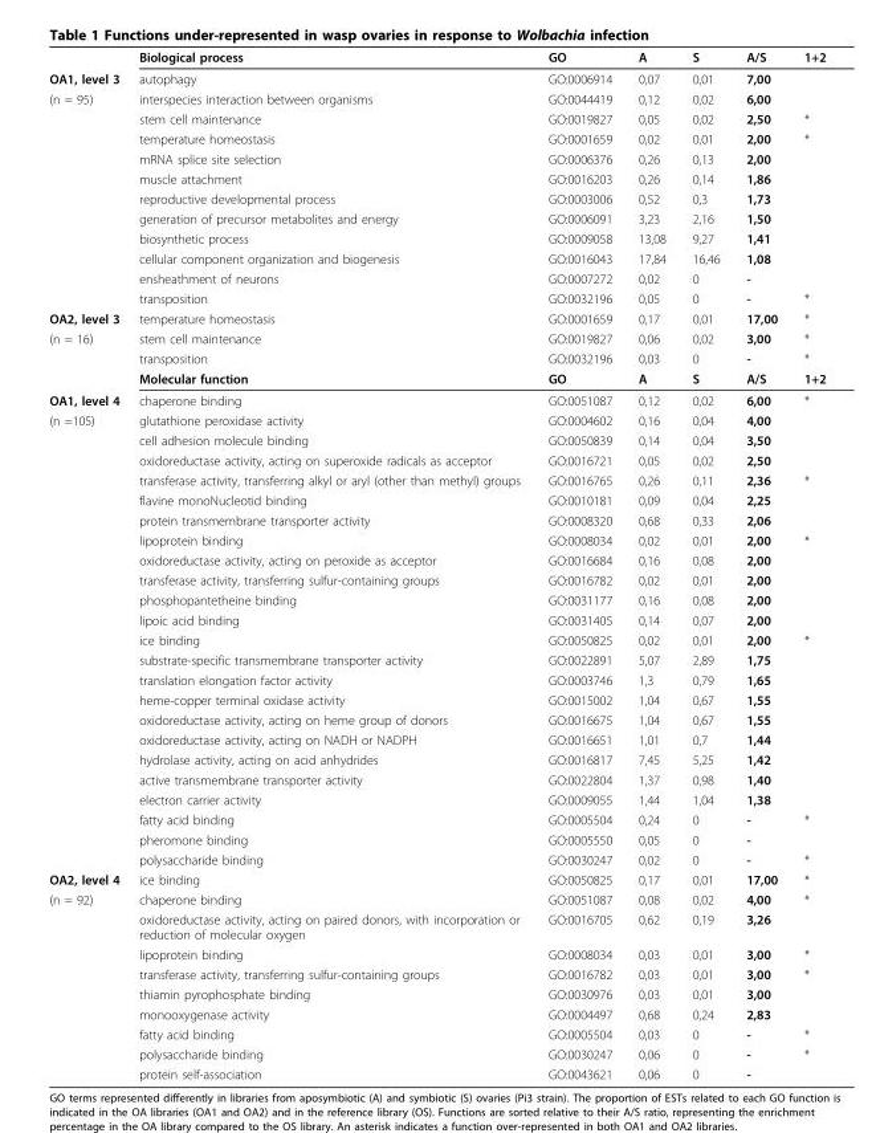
<table><thead><tr><td></td><td>Biological process</td><td>GO</td><td>A</td><td>S</td><td>A/S</td><td>1+2</td></tr></thead><tbody><tr><td>OA1, level 3</td><td>autophagy</td><td>GO:0006914</td><td>0,07</td><td>0,01</td><td>7,00</td><td></td></tr><tr><td rowspan="11">(n = 95)</td><td>interspecies interaction between organisms</td><td>GO:0044419</td><td>0,12</td><td>0,02</td><td>6,00</td><td></td></tr><tr><td>stem cell maintenance</td><td>GO:0019827</td><td>0,05</td><td>0,02</td><td>2,50</td><td>*</td></tr><tr><td>temperature homeostasis</td><td>GO:0001659</td><td>0,02</td><td>0,01</td><td>2,00</td><td>*</td></tr><tr><td>mRNA splice site selection</td><td>GO:0006376</td><td>0,26</td><td>0,13</td><td>2,00</td><td></td></tr><tr><td>muscle attachment</td><td>GO:0016203</td><td>0,26</td><td>0,14</td><td>1,86</td><td></td></tr><tr><td>reproductive developmental process</td><td>GO:0003006</td><td>0,52</td><td>0,3</td><td>1,73</td><td></td></tr><tr><td>generation of precursor metabolites and energy</td><td>GO:0006091</td><td>3,23</td><td>2,16</td><td>1,50</td><td></td></tr><tr><td>biosynthetic process</td><td>GO:0009058</td><td>13,08</td><td>9,27</td><td>1,41</td><td></td></tr><tr><td>cellular component organization and biogenesis</td><td>GO:0016043</td><td>17,84</td><td>16,46</td><td>1,08</td><td></td></tr><tr><td>ensheathment of neurons</td><td>GO:0007272</td><td>0,02</td><td>0</td><td>-</td><td></td></tr><tr><td>transposition</td><td>GO:0032196</td><td>0,05</td><td>0</td><td>-</td><td>*</td></tr><tr><td>OA2, level 3</td><td>temperature homeostasis</td><td>GO:0001659</td><td>0,17</td><td>0,01</td><td>17,00</td><td>*</td></tr><tr><td rowspan="3">(n = 16)</td><td>stem cell maintenance</td><td>GO:0019827</td><td>0,06</td><td>0,02</td><td>3,00</td><td>*</td></tr><tr><td>transposition</td><td>GO:0032196</td><td>0,03</td><td>0</td><td>-</td><td>*</td></tr><tr><td>Molecular function</td><td>GO</td><td>A</td><td>S</td><td>A/S</td><td>1+2</td></tr><tr><td>OA1, level 4</td><td>chaperone binding</td><td>GO:0051087</td><td>0,12</td><td>0,02</td><td>6,00</td><td>*</td></tr><tr><td rowspan="23">(n =105)</td><td>glutathione peroxidase activity</td><td>GO:0004602</td><td>0,16</td><td>0,04</td><td>4,00</td><td></td></tr><tr><td>cell adhesion molecule binding</td><td>GO:0050839</td><td>0,14</td><td>0,04</td><td>3,50</td><td></td></tr><tr><td>oxidoreductase activity, acting on superoxide radicals as acceptor</td><td>GO:0016721</td><td>0,05</td><td>0,02</td><td>2,50</td><td></td></tr><tr><td>transferase activity, transferring alkyl or aryl (other than methyl) groups</td><td>GO:0016765</td><td>0,26</td><td>0,11</td><td>2,36</td><td>*</td></tr><tr><td>flavine monoNucleotid binding</td><td>GO:0010181</td><td>0,09</td><td>0,04</td><td>2,25</td><td></td></tr><tr><td>protein transmembrane transporter activity</td><td>GO:0008320</td><td>0,68</td><td>0,33</td><td>2,06</td><td></td></tr><tr><td>lipoprotein binding</td><td>GO:0008034</td><td>0,02</td><td>0,01</td><td>2,00</td><td>*</td></tr><tr><td>oxidoreductase activity, acting on peroxide as acceptor</td><td>GO:0016684</td><td>0,16</td><td>0,08</td><td>2,00</td><td></td></tr><tr><td>transferase activity, transferring sulfur-containing groups</td><td>GO:0016782</td><td>0,02</td><td>0,01</td><td>2,00</td><td></td></tr><tr><td>phosphopantetheine binding</td><td>GO:0031177</td><td>0,16</td><td>0,08</td><td>2,00</td><td></td></tr><tr><td>lipoic acid binding</td><td>GO:0031405</td><td>0,14</td><td>0,07</td><td>2,00</td><td></td></tr><tr><td>ice binding</td><td>GO:0050825</td><td>0,02</td><td>0,01</td><td>2,00</td><td>*</td></tr><tr><td>substrate-specific transmembrane transporter activity</td><td>GO:0022891</td><td>5,07</td><td>2,89</td><td>1,75</td><td></td></tr><tr><td>translation elongation factor activity</td><td>GO:0003746</td><td>1,3</td><td>0,79</td><td>1,65</td><td></td></tr><tr><td>heme-copper terminal oxidase activity</td><td>GO:0015002</td><td>1,04</td><td>0,67</td><td>1,55</td><td></td></tr><tr><td>oxidoreductase activity, acting on heme group of donors</td><td>GO:0016675</td><td>1,04</td><td>0,67</td><td>1,55</td><td></td></tr><tr><td>oxidoreductase activity, acting on NADH or NADPH</td><td>GO:0016651</td><td>1,01</td><td>0,7</td><td>1,44</td><td></td></tr><tr><td>hydrolase activity, acting on acid anhydrides</td><td>GO:0016817</td><td>7,45</td><td>5,25</td><td>1,42</td><td></td></tr><tr><td>active transmembrane transporter activity</td><td>GO:0022804</td><td>1,37</td><td>0,98</td><td>1,40</td><td></td></tr><tr><td>electron carrier activity</td><td>GO:0009055</td><td>1,44</td><td>1,04</td><td>1,38</td><td></td></tr><tr><td>fatty acid binding</td><td>GO:0005504</td><td>0,24</td><td>0</td><td>-</td><td>*</td></tr><tr><td>pheromone binding</td><td>GO:0005550</td><td>0,05</td><td>0</td><td>-</td><td></td></tr><tr><td>polysaccharide binding</td><td>GO:0030247</td><td>0,02</td><td>0</td><td>-</td><td>*</td></tr><tr><td>OA2, level 4</td><td>ice binding</td><td>GO:0050825</td><td>0,17</td><td>0,01</td><td>17,00</td><td>*</td></tr><tr><td rowspan="9">(n = 92)</td><td>chaperone binding</td><td>GO:0051087</td><td>0,08</td><td>0,02</td><td>4,00</td><td>*</td></tr><tr><td>oxidoreductase activity, acting on paired donors, with incorporation or reduction of molecular oxygen</td><td>GO:0016705</td><td>0,62</td><td>0,19</td><td>3,26</td><td></td></tr><tr><td>lipoprotein binding</td><td>GO:0008034</td><td>0,03</td><td>0,01</td><td>3,00</td><td>*</td></tr><tr><td>transferase activity, transferring sulfur-containing groups</td><td>GO:0016782</td><td>0,03</td><td>0,01</td><td>3,00</td><td>*</td></tr><tr><td>thiamin pyrophosphate binding</td><td>GO:0030976</td><td>0,03</td><td>0,01</td><td>3,00</td><td></td></tr><tr><td>monooxygenase activity</td><td>GO:0004497</td><td>0,68</td><td>0,24</td><td>2,83</td><td></td></tr><tr><td>fatty acid binding</td><td>GO:0005504</td><td>0,03</td><td>0</td><td>-</td><td>*</td></tr><tr><td>polysaccharide binding</td><td>GO:0030247</td><td>0,06</td><td>0</td><td>-</td><td>*</td></tr><tr><td>protein self-association</td><td>GO:0043621</td><td>0,06</td><td>0</td><td>-</td><td></td></tr></tbody></table>